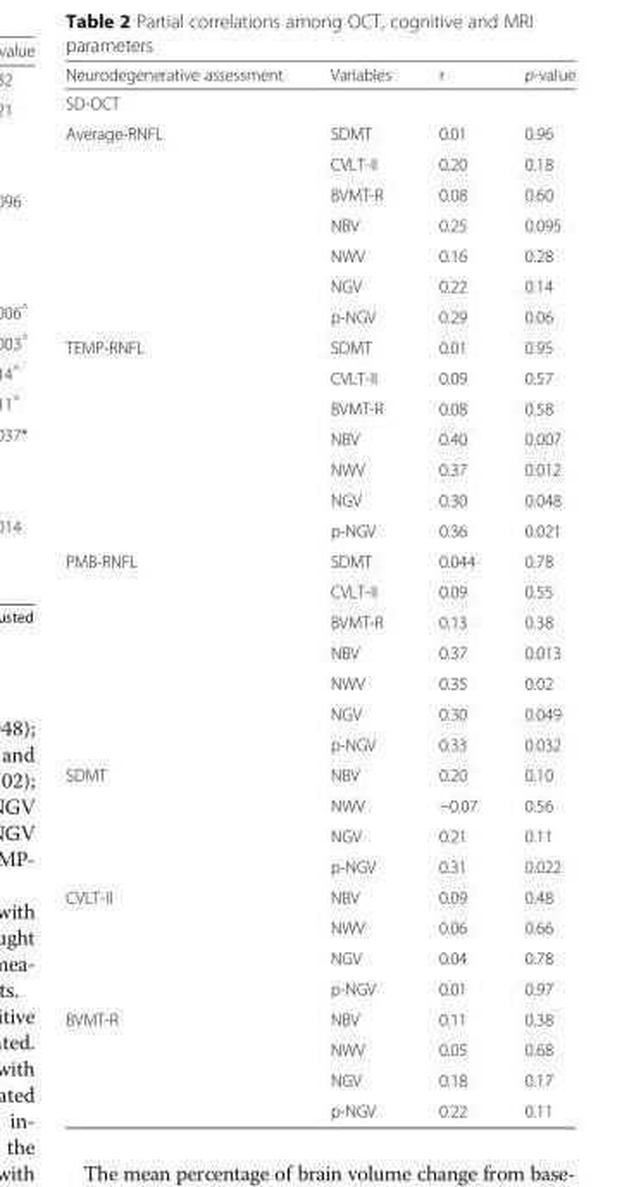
<table><thead><tr><td>Neurodegenerative assessment</td><td>Variables</td><td>r</td><td>p-value</td></tr></thead><tbody><tr><td colspan="4">SD-OCT</td></tr><tr><td rowspan="7">Average-RNFL</td><td>SDMT</td><td>0.01</td><td>0.96</td></tr><tr><td>CVLT-II</td><td>0.20</td><td>0.18</td></tr><tr><td>BVMT-R</td><td>0.08</td><td>0.60</td></tr><tr><td>NBV</td><td>0.25</td><td>0.095</td></tr><tr><td>NWV</td><td>0.16</td><td>0.28</td></tr><tr><td>NGV</td><td>0.22</td><td>0.14</td></tr><tr><td>p-NGV</td><td>0.29</td><td>0.06</td></tr><tr><td rowspan="7">TEMP-RNFL</td><td>SDMT</td><td>0.01</td><td>0.95</td></tr><tr><td>CVLT-II</td><td>0.09</td><td>0.57</td></tr><tr><td>BVMT-R</td><td>0.08</td><td>0.58</td></tr><tr><td>NBV</td><td>0.40</td><td>0.007</td></tr><tr><td>NWV</td><td>0.37</td><td>0.012</td></tr><tr><td>NGV</td><td>0.30</td><td>0.048</td></tr><tr><td>p-NGV</td><td>0.36</td><td>0.021</td></tr><tr><td rowspan="7">PMB-RNFL</td><td>SDMT</td><td>0.044</td><td>0.78</td></tr><tr><td>CVLT-II</td><td>0.09</td><td>0.55</td></tr><tr><td>BVMT-R</td><td>0.13</td><td>0.38</td></tr><tr><td>NBV</td><td>0.37</td><td>0.013</td></tr><tr><td>NWV</td><td>0.35</td><td>0.02</td></tr><tr><td>NGV</td><td>0.30</td><td>0.049</td></tr><tr><td>p-NGV</td><td>0.33</td><td>0.032</td></tr><tr><td rowspan="4">SDMT</td><td>NBV</td><td>0.20</td><td>0.10</td></tr><tr><td>NWV</td><td>−0.07</td><td>0.56</td></tr><tr><td>NGV</td><td>0.21</td><td>0.11</td></tr><tr><td>p-NGV</td><td>0.31</td><td>0.022</td></tr><tr><td rowspan="4">CVLT-II</td><td>NBV</td><td>0.09</td><td>0.48</td></tr><tr><td>NWV</td><td>0.06</td><td>0.66</td></tr><tr><td>NGV</td><td>0.04</td><td>0.78</td></tr><tr><td>p-NGV</td><td>0.01</td><td>0.97</td></tr><tr><td rowspan="4">BVMT-R</td><td>NBV</td><td>0.11</td><td>0.38</td></tr><tr><td>NWV</td><td>0.05</td><td>0.68</td></tr><tr><td>NGV</td><td>0.18</td><td>0.17</td></tr><tr><td>p-NGV</td><td>0.22</td><td>0.11</td></tr></tbody></table>